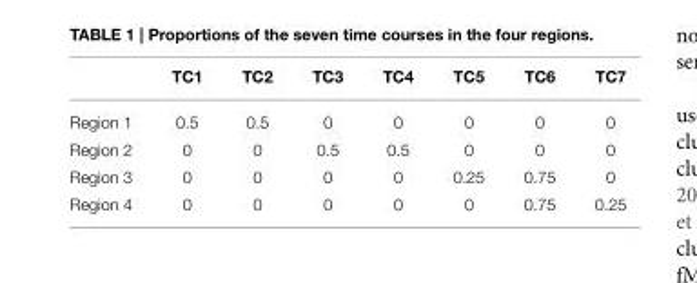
<table><thead><tr><td></td><td>TC1</td><td>TC2</td><td>TC3</td><td>TC4</td><td>TC5</td><td>TC6</td><td>TC7</td></tr></thead><tbody><tr><td>Region 1</td><td>0.5</td><td>0.5</td><td>0</td><td>0</td><td>0</td><td>0</td><td>0</td></tr><tr><td>Region 2</td><td>0</td><td>0</td><td>0.5</td><td>0.5</td><td>0</td><td>0</td><td>0</td></tr><tr><td>Region 3</td><td>0</td><td>0</td><td>0</td><td>0</td><td>0.25</td><td>0.75</td><td>0</td></tr><tr><td>Region 4</td><td>0</td><td>0</td><td>0</td><td>0</td><td>0</td><td>0.75</td><td>0.25</td></tr></tbody></table>